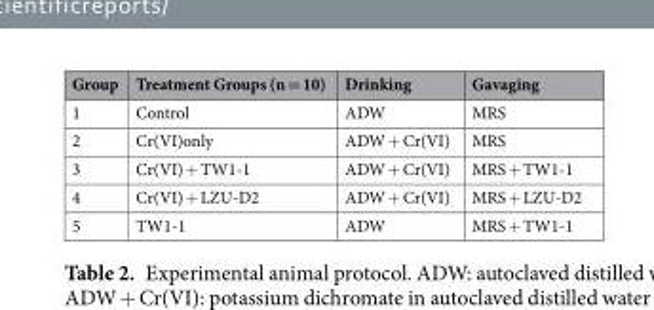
<table><thead><tr><td>Group</td><td>Treatment Groups (n = 10)</td><td>Drinking</td><td>Gavaging</td></tr></thead><tbody><tr><td>1</td><td>Control</td><td>ADW</td><td>MRS</td></tr><tr><td>2</td><td>Cr(VI)only</td><td>ADW + Cr(VI)</td><td>MRS</td></tr><tr><td>3</td><td>Cr(VI) + TW1-1</td><td>ADW + Cr(VI)</td><td>MRS + TW1-1</td></tr><tr><td>4</td><td>Cr(VI) + LZU-D2</td><td>ADW + Cr(VI)</td><td>MRS + LZU-D2</td></tr><tr><td>5</td><td>TW1-1</td><td>ADW</td><td>MRS + TW1-1</td></tr></tbody></table>